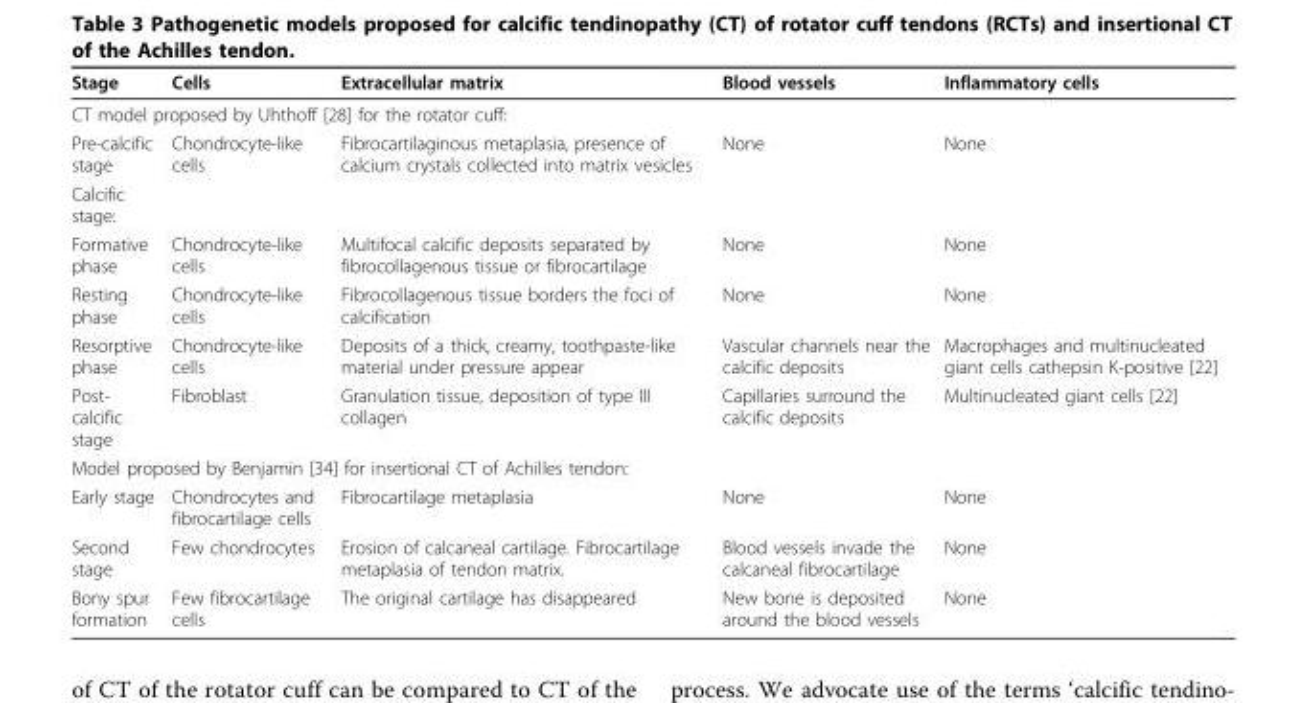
<table><thead><tr><td>Stage</td><td>Cells</td><td>Extracellular matrix</td><td>Blood vessels</td><td>Inflammatory cells</td></tr></thead><tbody><tr><td colspan="5">CT model proposed by Uhthoff [28] for the rotator cuff:</td></tr><tr><td>Pre-calcific stage</td><td>Chondrocyte-like cells</td><td>Fibrocartilaginous metaplasia, presence of calcium crystals collected into matrix vesicles</td><td>None</td><td>None</td></tr><tr><td colspan="5">Calcific stage:</td></tr><tr><td>Formative phase</td><td>Chondrocyte-like cells</td><td>Multifocal calcific deposits separated by fibrocollagenous tissue or fibrocartilage</td><td>None</td><td>None</td></tr><tr><td>Resting phase</td><td>Chondrocyte-like cells</td><td>Fibrocollagenous tissue borders the foci of calcification</td><td>None</td><td>None</td></tr><tr><td>Resorptive phase</td><td>Chondrocyte-like cells</td><td>Deposits of a thick, creamy, toothpaste-like material under pressure appear</td><td>Vascular channels near the calcific deposits</td><td>Macrophages and multinucleated giant cells cathepsin K-positive [22]</td></tr><tr><td>Post- calcific stage</td><td>Fibroblast</td><td>Granulation tissue, deposition of type III collagen</td><td>Capillaries surround the calcific deposits</td><td>Multinucleated giant cells [22]</td></tr><tr><td colspan="5">Model proposed by Benjamin [34] for insertional CT of Achilles tendon:</td></tr><tr><td>Early stage</td><td>Chondrocytes and fibrocartilage cells</td><td>Fibrocartilage metaplasia</td><td>None</td><td>None</td></tr><tr><td>Second stage</td><td>Few chondrocytes</td><td>Erosion of calcaneal cartilage. Fibrocartilage metaplasia of tendon matrix.</td><td>Blood vessels invade the calcaneal fibrocartilage</td><td>None</td></tr><tr><td>Bony spur formation</td><td>Few fibrocartilage cells</td><td>The original cartilage has disappeared</td><td>New bone is deposited around the blood vessels</td><td>None</td></tr></tbody></table>